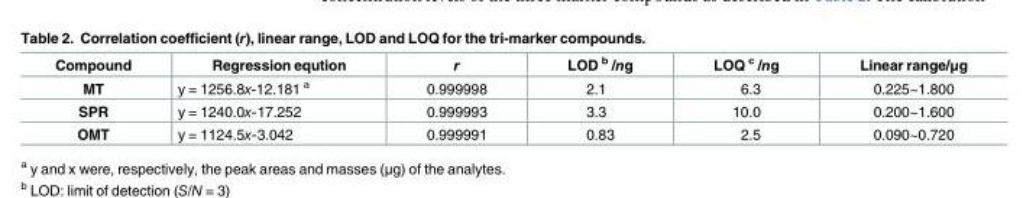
<table><thead><tr><td>Compound</td><td>Regression eqution</td><td>r</td><td>LOD <sup>b</sup> /ng</td><td>LOQ <sup>c</sup> /ng</td><td>Linear range/μg</td></tr></thead><tbody><tr><td>MT</td><td>y = 1256.8x-12.181 <sup>a</sup></td><td>0.999998</td><td>2.1</td><td>6.3</td><td>0.225~1.800</td></tr><tr><td>SPR</td><td>y = 1240.0x-17.252</td><td>0.999993</td><td>3.3</td><td>10.0</td><td>0.200~1.600</td></tr><tr><td>OMT</td><td>y = 1124.5x-3.042</td><td>0.999991</td><td>0.83</td><td>2.5</td><td>0.090~0.720</td></tr></tbody></table>